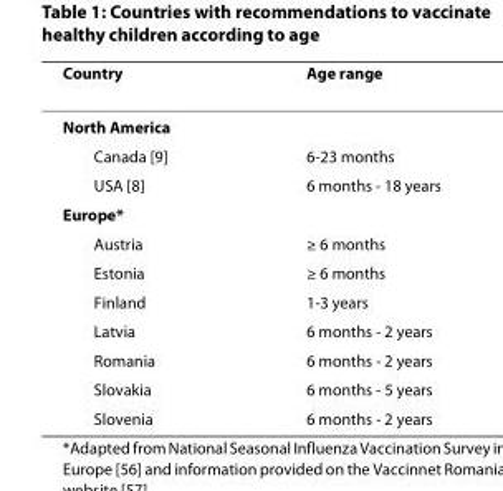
<table><thead><tr><td>Country</td><td>Age range</td></tr></thead><tbody><tr><td colspan="2">North America</td></tr><tr><td>Canada [9]</td><td>6-23 months</td></tr><tr><td>USA [8]</td><td>6 months - 18 years</td></tr><tr><td colspan="2">Europe*</td></tr><tr><td>Austria</td><td>≥ 6 months</td></tr><tr><td>Estonia</td><td>≥ 6 months</td></tr><tr><td>Finland</td><td>1-3 years</td></tr><tr><td>Latvia</td><td>6 months - 2 years</td></tr><tr><td>Romania</td><td>6 months - 2 years</td></tr><tr><td>Slovakia</td><td>6 months - 5 years</td></tr><tr><td>Slovenia</td><td>6 months - 2 years</td></tr></tbody></table>